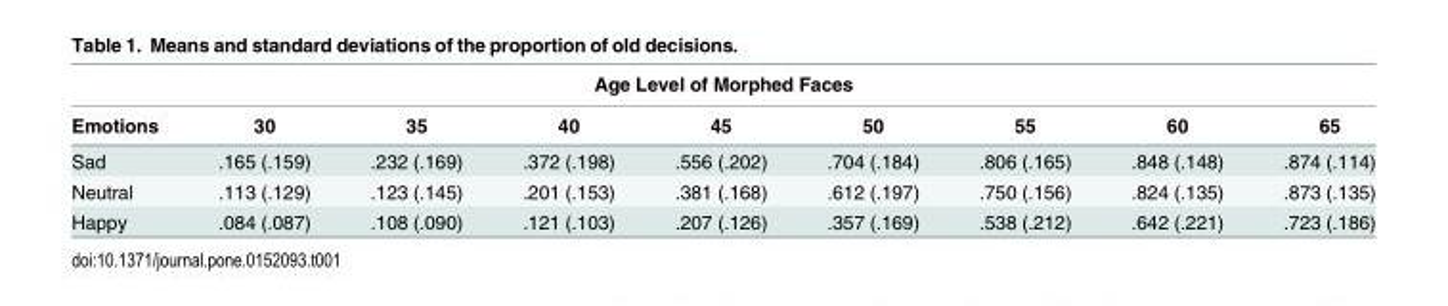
<table><thead><tr><td colspan="9">Age Level of Morphed Faces</td></tr><tr><td>Emotions</td><td>30</td><td>35</td><td>40</td><td>45</td><td>50</td><td>55</td><td>60</td><td>65</td></tr></thead><tbody><tr><td>Sad</td><td>.165 (.159)</td><td>.232 (.169)</td><td>.372 (.198)</td><td>.556 (.202)</td><td>.704 (.184)</td><td>.806 (.165)</td><td>.848 (.148)</td><td>.874 (.114)</td></tr><tr><td>Neutral</td><td>.113 (.129)</td><td>.123 (.145)</td><td>.201 (.153)</td><td>.381 (.168)</td><td>.612 (.197)</td><td>.750 (.156)</td><td>.824 (.135)</td><td>.873 (.135)</td></tr><tr><td>Happy</td><td>.084 (.087)</td><td>.108 (.090)</td><td>.121 (.103)</td><td>.207 (.126)</td><td>.357 (.169)</td><td>.538 (.212)</td><td>.642 (.221)</td><td>.723 (.186)</td></tr></tbody></table>